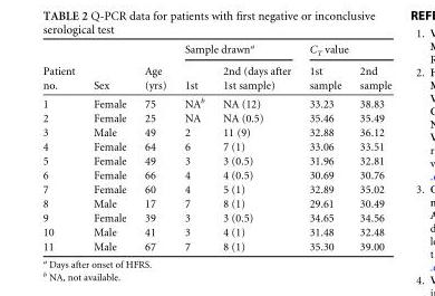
<table><thead><tr><td rowspan="2">Patient no.</td><td rowspan="2">Sex</td><td rowspan="2">Age (yrs)</td><td colspan="2">Sample drawn<sup>a</sup></td><td colspan="2">C<sub>T</sub> value</td></tr><tr><td>1st</td><td>2nd (days after 1st sample)</td><td>1st sample</td><td>2nd sample</td></tr></thead><tbody><tr><td>1</td><td>Female</td><td>75</td><td>NA<sup>b</sup></td><td>NA (12)</td><td>33.23</td><td>38.83</td></tr><tr><td>2</td><td>Female</td><td>25</td><td>NA</td><td>NA (0.5)</td><td>35.46</td><td>35.49</td></tr><tr><td>3</td><td>Male</td><td>49</td><td>2</td><td>11 (9)</td><td>32.88</td><td>36.12</td></tr><tr><td>4</td><td>Female</td><td>64</td><td>6</td><td>7 (1)</td><td>33.06</td><td>33.51</td></tr><tr><td>5</td><td>Female</td><td>49</td><td>3</td><td>3 (0.5)</td><td>31.96</td><td>32.81</td></tr><tr><td>6</td><td>Female</td><td>66</td><td>4</td><td>4 (0.5)</td><td>30.69</td><td>30.76</td></tr><tr><td>7</td><td>Female</td><td>60</td><td>4</td><td>5 (1)</td><td>32.89</td><td>35.02</td></tr><tr><td>8</td><td>Male</td><td>17</td><td>7</td><td>8 (1)</td><td>29.61</td><td>30.49</td></tr><tr><td>9</td><td>Female</td><td>39</td><td>3</td><td>3 (0.5)</td><td>34.65</td><td>34.56</td></tr><tr><td>10</td><td>Male</td><td>41</td><td>3</td><td>4 (1)</td><td>31.48</td><td>32.48</td></tr><tr><td>11</td><td>Male</td><td>67</td><td>7</td><td>8 (1)</td><td>35.30</td><td>39.00</td></tr></tbody></table>